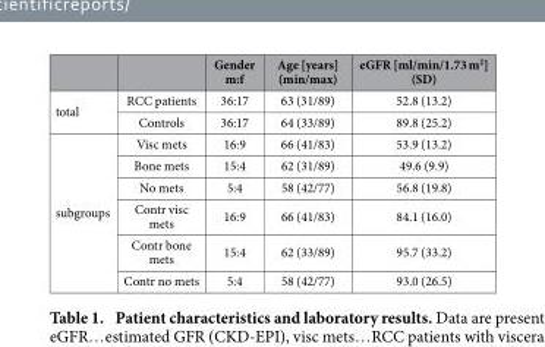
<table><thead><tr><td></td><td></td><td>Gender m:f</td><td>Age [years] (min/max)</td><td>eGFR [ml/min/1.73 m<sup>2</sup>] (SD)</td></tr></thead><tbody><tr><td rowspan="2">total</td><td>RCC patients</td><td>36:17</td><td>63 (31/89)</td><td>52.8 (13.2)</td></tr><tr><td>Controls</td><td>36:17</td><td>64 (33/89)</td><td>89.8 (25.2)</td></tr><tr><td rowspan="6">subgroups</td><td>Visc mets</td><td>16:9</td><td>66 (41/83)</td><td>53.9 (13.2)</td></tr><tr><td>Bone mets</td><td>15:4</td><td>62 (31/89)</td><td>49.6 (9.9)</td></tr><tr><td>No mets</td><td>5:4</td><td>58 (42/77)</td><td>56.8 (19.8)</td></tr><tr><td>Contr visc mets</td><td>16:9</td><td>66 (41/83)</td><td>84.1 (16.0)</td></tr><tr><td>Contr bone mets</td><td>15:4</td><td>62 (33/89)</td><td>95.7 (33.2)</td></tr><tr><td>Contr no mets</td><td>5:4</td><td>58 (42/77)</td><td>93.0 (26.5)</td></tr></tbody></table>